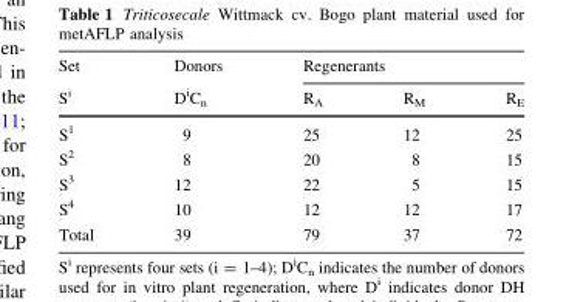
<table><thead><tr><td rowspan="2">Set S<sup>i</sup></td><td rowspan="2">Donors D<sup>i</sup>C<sub>n</sub></td><td colspan="3">Regenerants</td></tr><tr><td>R<sub>A</sub></td><td>R<sub>M</sub></td><td>R<sub>E</sub></td></tr></thead><tbody><tr><td>S<sup>1</sup></td><td>9</td><td>25</td><td>12</td><td>25</td></tr><tr><td>S<sup>2</sup></td><td>8</td><td>20</td><td>8</td><td>15</td></tr><tr><td>S<sup>3</sup></td><td>12</td><td>22</td><td>5</td><td>15</td></tr><tr><td>S<sup>4</sup></td><td>10</td><td>12</td><td>12</td><td>17</td></tr><tr><td>Total</td><td>39</td><td>79</td><td>37</td><td>72</td></tr></tbody></table>